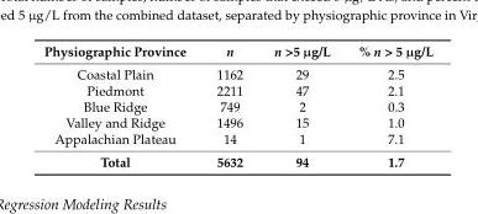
<table><thead><tr><td>Physiographic Province</td><td>n</td><td>n &gt;5 µg/L</td><td>% n &gt; 5 µg/L</td></tr></thead><tbody><tr><td>Coastal Plain</td><td>1162</td><td>29</td><td>2.5</td></tr><tr><td>Piedmont</td><td>2211</td><td>47</td><td>2.1</td></tr><tr><td>Blue Ridge</td><td>749</td><td>2</td><td>0.3</td></tr><tr><td>Valley and Ridge</td><td>1496</td><td>15</td><td>1.0</td></tr><tr><td>Appalachian Plateau</td><td>14</td><td>1</td><td>7.1</td></tr><tr><td>Total</td><td>5632</td><td>94</td><td>1.7</td></tr></tbody></table>